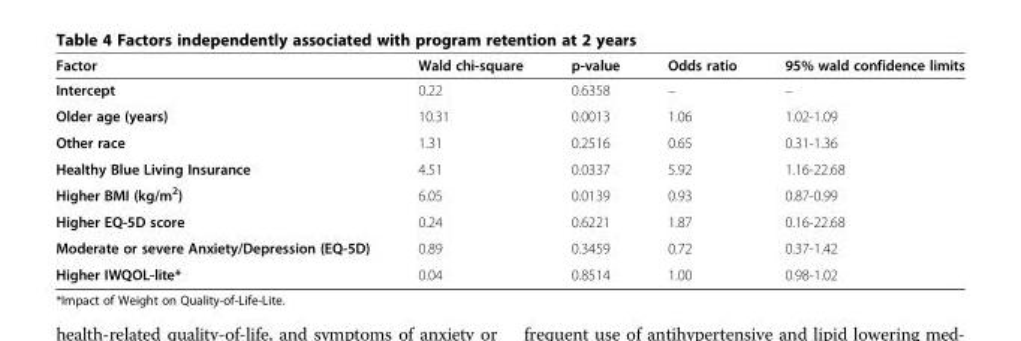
<table><thead><tr><td>Factor</td><td>Wald chi-square</td><td>p-value</td><td>Odds ratio</td><td>95% wald confidence limits</td></tr></thead><tbody><tr><td>Intercept</td><td>0.22</td><td>0.6358</td><td>–</td><td>–</td></tr><tr><td>Older age (years)</td><td>10.31</td><td>0.0013</td><td>1.06</td><td>1.02-1.09</td></tr><tr><td>Other race</td><td>1.31</td><td>0.2516</td><td>0.65</td><td>0.31-1.36</td></tr><tr><td>Healthy Blue Living Insurance</td><td>4.51</td><td>0.0337</td><td>5.92</td><td>1.16-22.68</td></tr><tr><td>Higher BMI (kg/m<sup>2</sup>)</td><td>6.05</td><td>0.0139</td><td>0.93</td><td>0.87-0.99</td></tr><tr><td>Higher EQ-5D score</td><td>0.24</td><td>0.6221</td><td>1.87</td><td>0.16-22.68</td></tr><tr><td>Moderate or severe Anxiety/Depression (EQ-5D)</td><td>0.89</td><td>0.3459</td><td>0.72</td><td>0.37-1.42</td></tr><tr><td>Higher IWQOL-lite*</td><td>0.04</td><td>0.8514</td><td>1.00</td><td>0.98-1.02</td></tr></tbody></table>